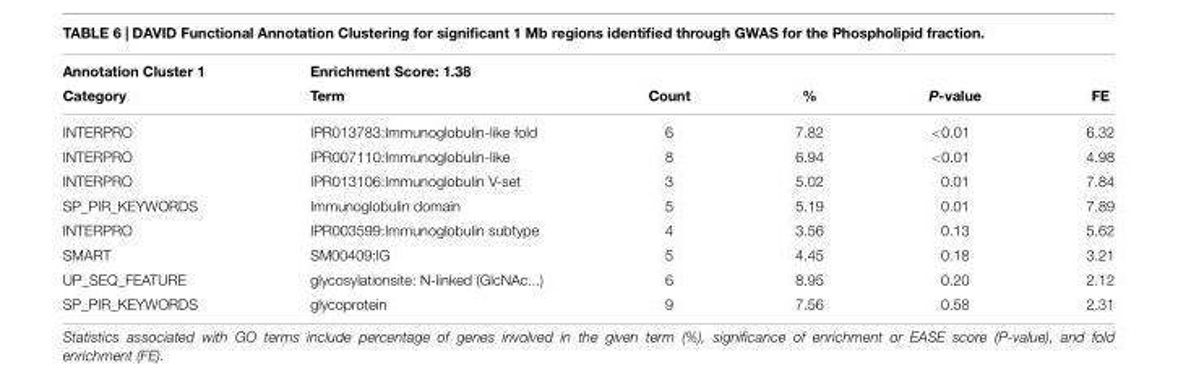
<table><thead><tr><td rowspan="2">Annotation Cluster 1 Category</td><td rowspan="2">Enrichment Score: 1.38 Term</td><td rowspan="2">Count</td><td rowspan="2">%</td><td rowspan="2">P-value</td><td rowspan="2">FE</td></tr><tr></tr></thead><tbody><tr><td>INTERPRO</td><td>IPR013783:Immunoglobulin-like fold</td><td>6</td><td>7.82</td><td>&lt;0.01</td><td>6.32</td></tr><tr><td>INTERPRO</td><td>IPR007110:Immunoglobulin-like</td><td>8</td><td>6.94</td><td>&lt;0.01</td><td>4.98</td></tr><tr><td>INTERPRO</td><td>IPR013106:Immunoglobulin V-set</td><td>3</td><td>5.02</td><td>0.01</td><td>7.84</td></tr><tr><td>SP_PIR_KEYWORDS</td><td>Immunoglobulin domain</td><td>5</td><td>5.19</td><td>0.01</td><td>7.89</td></tr><tr><td>INTERPRO</td><td>IPR003599:Immunoglobulin subtype</td><td>4</td><td>3.56</td><td>0.13</td><td>5.62</td></tr><tr><td>SMART</td><td>SM00409:IG</td><td>5</td><td>4.45</td><td>0.18</td><td>3.21</td></tr><tr><td>UP_SEQ_FEATURE</td><td>glycosylationsite: N-linked (GlcNAc...)</td><td>6</td><td>8.95</td><td>0.20</td><td>2.12</td></tr><tr><td>SP_PIR_KEYWORDS</td><td>glycoprotein</td><td>9</td><td>7.56</td><td>0.58</td><td>2.31</td></tr></tbody></table>